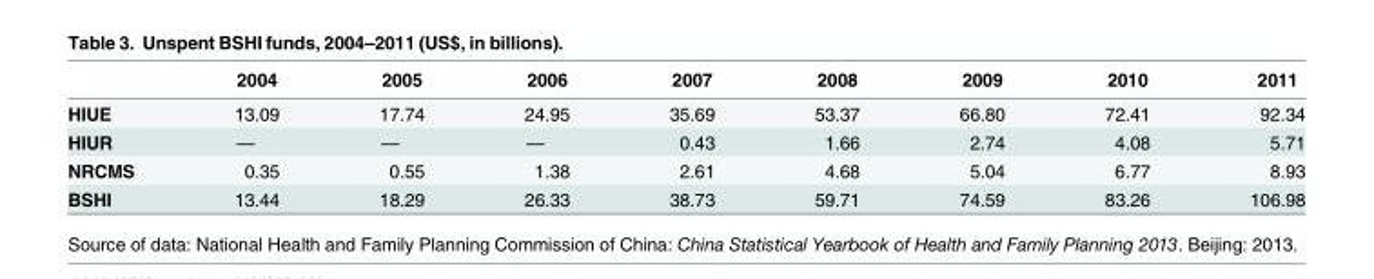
<table><thead><tr><td></td><td>2004</td><td>2005</td><td>2006</td><td>2007</td><td>2008</td><td>2009</td><td>2010</td><td>2011</td></tr></thead><tbody><tr><td>HIUE</td><td>13.09</td><td>17.74</td><td>24.95</td><td>35.69</td><td>53.37</td><td>66.80</td><td>72.41</td><td>92.34</td></tr><tr><td>HIUR</td><td>—</td><td>—</td><td>—</td><td>0.43</td><td>1.66</td><td>2.74</td><td>4.08</td><td>5.71</td></tr><tr><td>NRCMS</td><td>0.35</td><td>0.55</td><td>1.38</td><td>2.61</td><td>4.68</td><td>5.04</td><td>6.77</td><td>8.93</td></tr><tr><td>BSHI</td><td>13.44</td><td>18.29</td><td>26.33</td><td>38.73</td><td>59.71</td><td>74.59</td><td>83.26</td><td>106.98</td></tr></tbody></table>